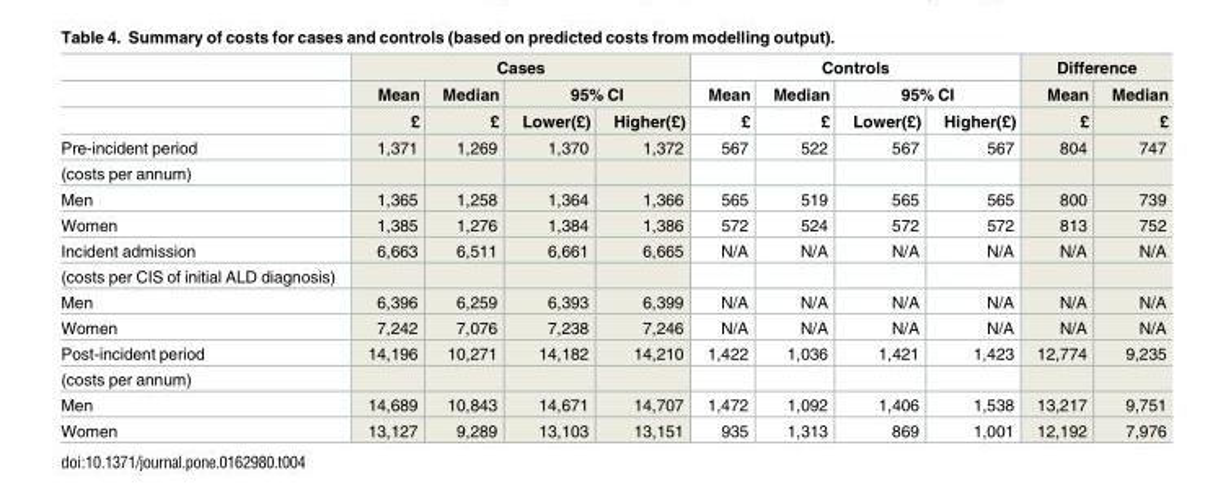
<table><thead><tr><td rowspan="3"></td><td colspan="4">Cases</td><td colspan="4">Controls</td><td colspan="2">Difference</td></tr><tr><td rowspan="2">Mean £</td><td rowspan="2">Median £</td><td colspan="2">95% CI</td><td rowspan="2">Mean £</td><td rowspan="2">Median £</td><td colspan="2">95% CI</td><td rowspan="2">Mean £</td><td rowspan="2">Median £</td></tr><tr><td>Lower(£)</td><td>Higher(£)</td><td>Lower(£)</td><td>Higher(£)</td></tr></thead><tbody><tr><td>Pre-incident period</td><td>1,371</td><td>1,269</td><td>1,370</td><td>1,372</td><td>567</td><td>522</td><td>567</td><td>567</td><td>804</td><td>747</td></tr><tr><td colspan="11">(costs per annum)</td></tr><tr><td>Men</td><td>1,365</td><td>1,258</td><td>1,364</td><td>1,366</td><td>565</td><td>519</td><td>565</td><td>565</td><td>800</td><td>739</td></tr><tr><td>Women</td><td>1,385</td><td>1,276</td><td>1,384</td><td>1,386</td><td>572</td><td>524</td><td>572</td><td>572</td><td>813</td><td>752</td></tr><tr><td>Incident admission</td><td>6,663</td><td>6,511</td><td>6,661</td><td>6,665</td><td>N/A</td><td>N/A</td><td>N/A</td><td>N/A</td><td>N/A</td><td>N/A</td></tr><tr><td colspan="11">(costs per CIS of initial ALD diagnosis)</td></tr><tr><td>Men</td><td>6,396</td><td>6,259</td><td>6,393</td><td>6,399</td><td>N/A</td><td>N/A</td><td>N/A</td><td>N/A</td><td>N/A</td><td>N/A</td></tr><tr><td>Women</td><td>7,242</td><td>7,076</td><td>7,238</td><td>7,246</td><td>N/A</td><td>N/A</td><td>N/A</td><td>N/A</td><td>N/A</td><td>N/A</td></tr><tr><td>Post-incident period</td><td>14,196</td><td>10,271</td><td>14,182</td><td>14,210</td><td>1,422</td><td>1,036</td><td>1,421</td><td>1,423</td><td>12,774</td><td>9,235</td></tr><tr><td colspan="11">(costs per annum)</td></tr><tr><td>Men</td><td>14,689</td><td>10,843</td><td>14,671</td><td>14,707</td><td>1,472</td><td>1,092</td><td>1,406</td><td>1,538</td><td>13,217</td><td>9,751</td></tr><tr><td>Women</td><td>13,127</td><td>9,289</td><td>13,103</td><td>13,151</td><td>935</td><td>1,313</td><td>869</td><td>1,001</td><td>12,192</td><td>7,976</td></tr></tbody></table>